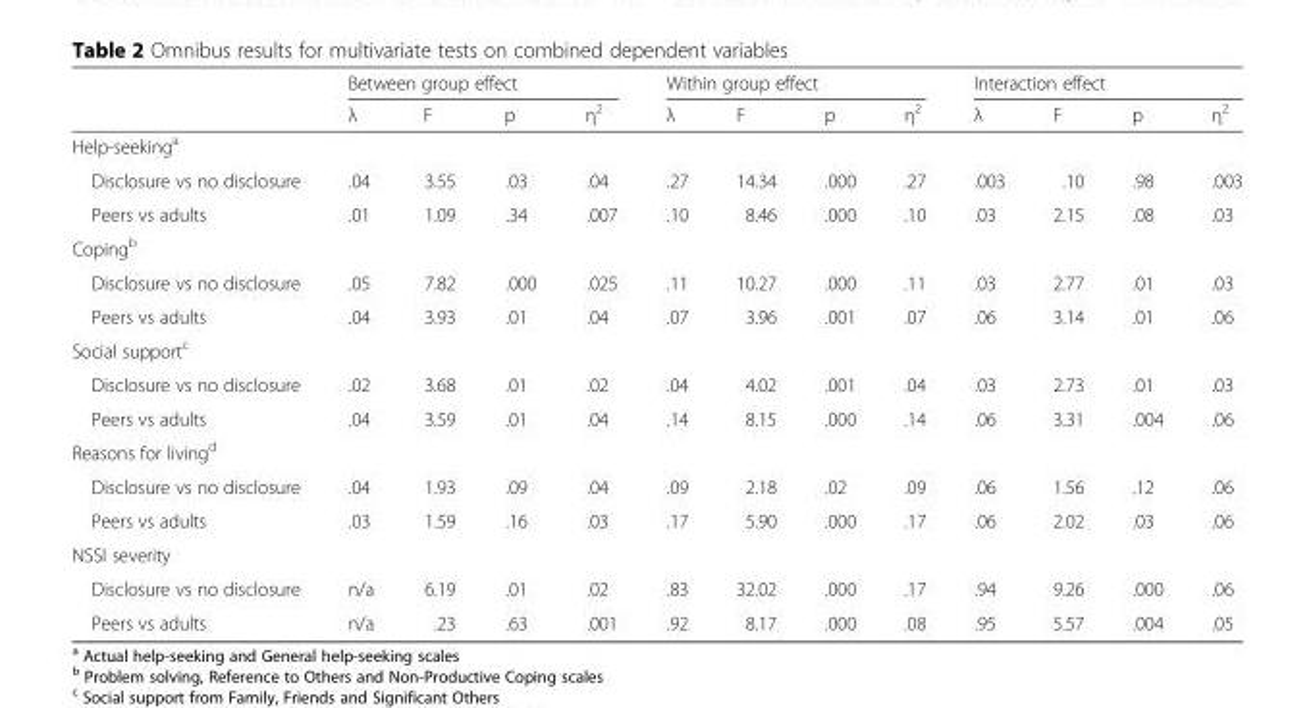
<table><thead><tr><td rowspan="2"></td><td colspan="4">Between group effect</td><td colspan="4">Within group effect</td><td colspan="4">Interaction effect</td></tr><tr><td>λ</td><td>F</td><td>p</td><td>η<sup>2</sup></td><td>λ</td><td>F</td><td>p</td><td>η<sup>2</sup></td><td>λ</td><td>F</td><td>p</td><td>η<sup>2</sup></td></tr></thead><tbody><tr><td colspan="13">Help-seeking<sup>a</sup></td></tr><tr><td>Disclosure vs no disclosure</td><td>.04</td><td>3.55</td><td>.03</td><td>.04</td><td>.27</td><td>14.34</td><td>.000</td><td>.27</td><td>.003</td><td>.10</td><td>.98</td><td>.003</td></tr><tr><td>Peers vs adults</td><td>.01</td><td>1.09</td><td>.34</td><td>.007</td><td>.10</td><td>8.46</td><td>.000</td><td>.10</td><td>.03</td><td>2.15</td><td>.08</td><td>.03</td></tr><tr><td colspan="13">Coping<sup>b</sup></td></tr><tr><td>Disclosure vs no disclosure</td><td>.05</td><td>7.82</td><td>.000</td><td>.025</td><td>.11</td><td>10.27</td><td>.000</td><td>.11</td><td>.03</td><td>2.77</td><td>.01</td><td>.03</td></tr><tr><td>Peers vs adults</td><td>.04</td><td>3.93</td><td>.01</td><td>.04</td><td>.07</td><td>3.96</td><td>.001</td><td>.07</td><td>.06</td><td>3.14</td><td>.01</td><td>.06</td></tr><tr><td colspan="13">Social support<sup>c</sup></td></tr><tr><td>Disclosure vs no disclosure</td><td>.02</td><td>3.68</td><td>.01</td><td>.02</td><td>.04</td><td>4.02</td><td>.001</td><td>.04</td><td>.03</td><td>2.73</td><td>.01</td><td>.03</td></tr><tr><td>Peers vs adults</td><td>.04</td><td>3.59</td><td>.01</td><td>.04</td><td>.14</td><td>8.15</td><td>.000</td><td>.14</td><td>.06</td><td>3.31</td><td>.004</td><td>.06</td></tr><tr><td colspan="13">Reasons for living<sup>d</sup></td></tr><tr><td>Disclosure vs no disclosure</td><td>.04</td><td>1.93</td><td>.09</td><td>.04</td><td>.09</td><td>2.18</td><td>.02</td><td>.09</td><td>.06</td><td>1.56</td><td>.12</td><td>.06</td></tr><tr><td>Peers vs adults</td><td>.03</td><td>1.59</td><td>.16</td><td>.03</td><td>.17</td><td>5.90</td><td>.000</td><td>.17</td><td>.06</td><td>2.02</td><td>.03</td><td>.06</td></tr><tr><td colspan="13">NSSI severity</td></tr><tr><td>Disclosure vs no disclosure</td><td>n/a</td><td>6.19</td><td>.01</td><td>.02</td><td>.83</td><td>32.02</td><td>.000</td><td>.17</td><td>.94</td><td>9.26</td><td>.000</td><td>.06</td></tr><tr><td>Peers vs adults</td><td>n/a</td><td>.23</td><td>.63</td><td>.001</td><td>.92</td><td>8.17</td><td>.000</td><td>.08</td><td>.95</td><td>5.57</td><td>.004</td><td>.05</td></tr></tbody></table>